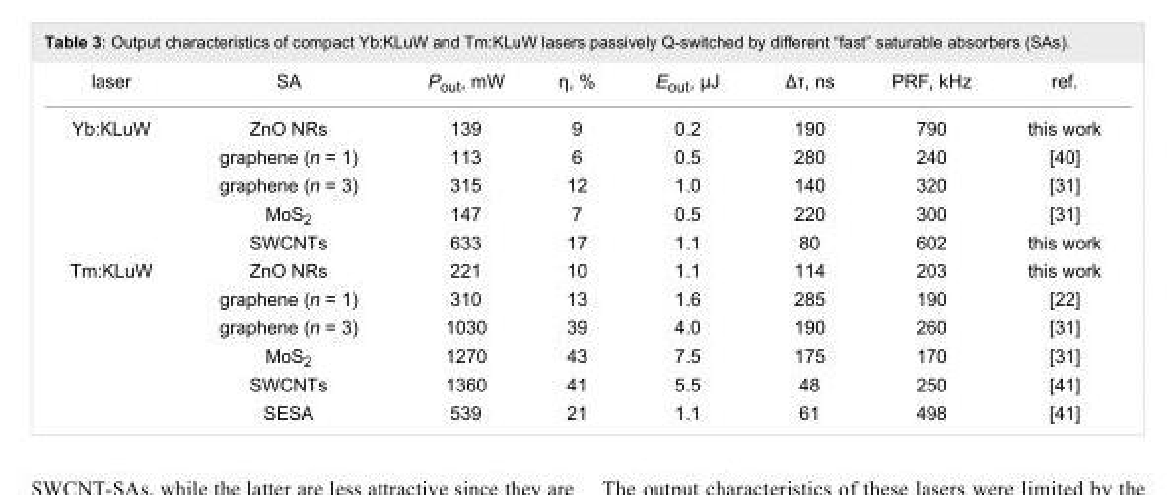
<table><tbody><tr><td>laser</td><td>SA</td><td>P<sub>out</sub>, mW</td><td>η, %</td><td>E<sub>out</sub>, µJ</td><td>Δτ, ns</td><td>PRF, kHz</td><td>ref.</td></tr><tr><td rowspan="5">Yb:KLuW</td><td>ZnO NRs</td><td>139</td><td>9</td><td>0.2</td><td>190</td><td>790</td><td>this work</td></tr><tr><td>graphene (n = 1)</td><td>113</td><td>6</td><td>0.5</td><td>280</td><td>240</td><td>[40]</td></tr><tr><td>graphene (n = 3)</td><td>315</td><td>12</td><td>1.0</td><td>140</td><td>320</td><td>[31]</td></tr><tr><td>MoS<sub>2</sub></td><td>147</td><td>7</td><td>0.5</td><td>220</td><td>300</td><td>[31]</td></tr><tr><td>SWCNTs</td><td>633</td><td>17</td><td>1.1</td><td>80</td><td>602</td><td>this work</td></tr><tr><td rowspan="6">Tm:KLuW</td><td>ZnO NRs</td><td>221</td><td>10</td><td>1.1</td><td>114</td><td>203</td><td>this work</td></tr><tr><td>graphene (n = 1)</td><td>310</td><td>13</td><td>1.6</td><td>285</td><td>190</td><td>[22]</td></tr><tr><td>graphene (n = 3)</td><td>1030</td><td>39</td><td>4.0</td><td>190</td><td>260</td><td>[31]</td></tr><tr><td>MoS<sub>2</sub></td><td>1270</td><td>43</td><td>7.5</td><td>175</td><td>170</td><td>[31]</td></tr><tr><td>SWCNTs</td><td>1360</td><td>41</td><td>5.5</td><td>48</td><td>250</td><td>[41]</td></tr><tr><td>SESA</td><td>539</td><td>21</td><td>1.1</td><td>61</td><td>498</td><td>[41]</td></tr></tbody></table>